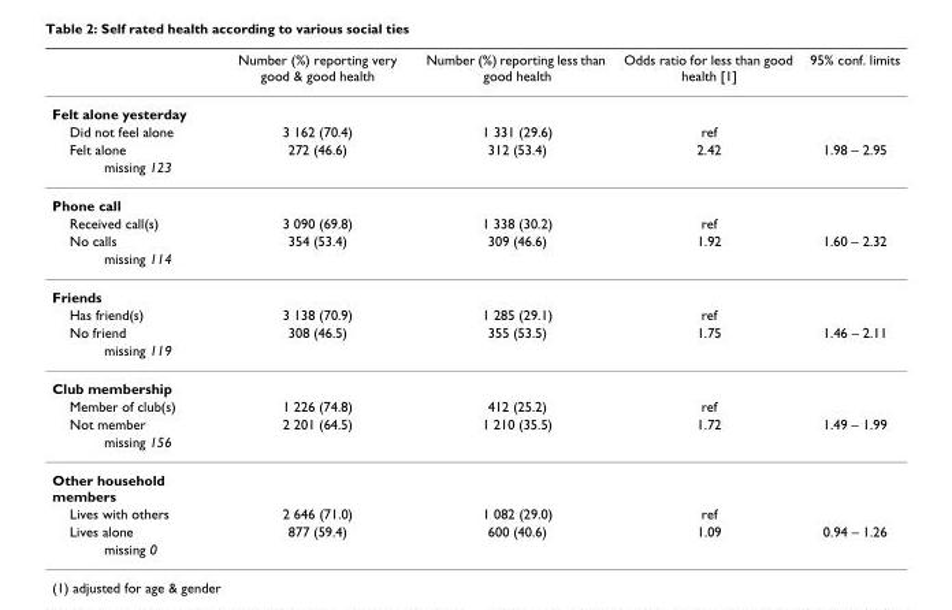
<table><thead><tr><td></td><td>Number (%) reporting very good &amp; good health</td><td>Number (%) reporting less than good health</td><td>Odds ratio for less than good health [1]</td><td>95% conf. limits</td></tr></thead><tbody><tr><td colspan="5">Felt alone yesterday</td></tr><tr><td>Did not feel alone</td><td>3 162 (70.4)</td><td>1 331 (29.6)</td><td>ref</td><td></td></tr><tr><td>Felt alone</td><td>272 (46.6)</td><td>312 (53.4)</td><td>2.42</td><td>1.98 – 2.95</td></tr><tr><td colspan="5">missing 123</td></tr><tr><td colspan="5">Phone call</td></tr><tr><td>Received call(s)</td><td>3 090 (69.8)</td><td>1 338 (30.2)</td><td>ref</td><td></td></tr><tr><td>No calls</td><td>354 (53.4)</td><td>309 (46.6)</td><td>1.92</td><td>1.60 – 2.32</td></tr><tr><td colspan="5">missing 114</td></tr><tr><td colspan="5">Friends</td></tr><tr><td>Has friend(s)</td><td>3 138 (70.9)</td><td>1 285 (29.1)</td><td>ref</td><td></td></tr><tr><td>No friend</td><td>308 (46.5)</td><td>355 (53.5)</td><td>1.75</td><td>1.46 – 2.11</td></tr><tr><td colspan="5">missing 119</td></tr><tr><td colspan="5">Club membership</td></tr><tr><td>Member of club(s)</td><td>1 226 (74.8)</td><td>412 (25.2)</td><td>ref</td><td></td></tr><tr><td>Not member</td><td>2 201 (64.5)</td><td>1 210 (35.5)</td><td>1.72</td><td>1.49 – 1.99</td></tr><tr><td colspan="5">missing 156</td></tr><tr><td colspan="5">Other household members</td></tr><tr><td>Lives with others</td><td>2 646 (71.0)</td><td>1 082 (29.0)</td><td>ref</td><td></td></tr><tr><td>Lives alone</td><td>877 (59.4)</td><td>600 (40.6)</td><td>1.09</td><td>0.94 – 1.26</td></tr><tr><td>missing 0</td><td></td><td></td><td></td><td></td></tr></tbody></table>